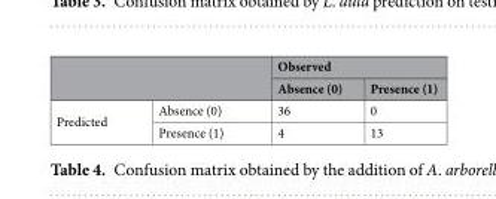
<table><thead><tr><td rowspan="2"></td><td rowspan="2"></td><td colspan="2">Observed</td></tr><tr><td>Absence (0)</td><td>Presence (1)</td></tr></thead><tbody><tr><td rowspan="2">Predicted</td><td>Absence (0)</td><td>36</td><td>0</td></tr><tr><td>Presence (1)</td><td>4</td><td>13</td></tr></tbody></table>